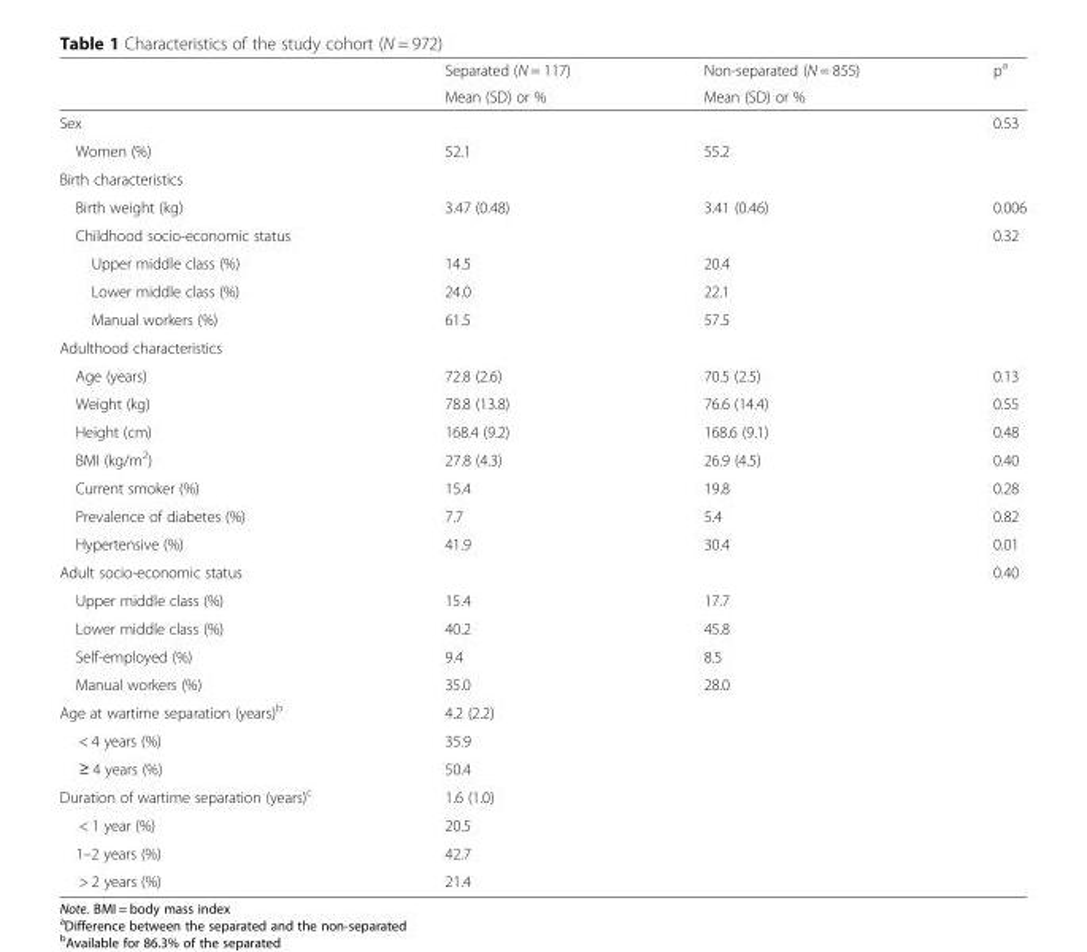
<table><thead><tr><td rowspan="2"></td><td rowspan="2">Separated (N = 117) Mean (SD) or %</td><td rowspan="2">Non-separated (N = 855) Mean (SD) or %</td><td rowspan="2">p<sup>a</sup></td></tr><tr></tr></thead><tbody><tr><td>Sex</td><td></td><td></td><td>0.53</td></tr><tr><td>Women (%)</td><td>52.1</td><td>55.2</td><td></td></tr><tr><td colspan="4">Birth characteristics</td></tr><tr><td>Birth weight (kg)</td><td>3.47 (0.48)</td><td>3.41 (0.46)</td><td>0.006</td></tr><tr><td>Childhood socio-economic status</td><td></td><td></td><td>0.32</td></tr><tr><td>Upper middle class (%)</td><td>14.5</td><td>20.4</td><td></td></tr><tr><td>Lower middle class (%)</td><td>24.0</td><td>22.1</td><td></td></tr><tr><td>Manual workers (%)</td><td>61.5</td><td>57.5</td><td></td></tr><tr><td colspan="4">Adulthood characteristics</td></tr><tr><td>Age (years)</td><td>72.8 (2.6)</td><td>70.5 (2.5)</td><td>0.13</td></tr><tr><td>Weight (kg)</td><td>78.8 (13.8)</td><td>76.6 (14.4)</td><td>0.55</td></tr><tr><td>Height (cm)</td><td>168.4 (9.2)</td><td>168.6 (9.1)</td><td>0.48</td></tr><tr><td>BMI (kg/m<sup>2</sup>)</td><td>27.8 (4.3)</td><td>26.9 (4.5)</td><td>0.40</td></tr><tr><td>Current smoker (%)</td><td>15.4</td><td>19.8</td><td>0.28</td></tr><tr><td>Prevalence of diabetes (%)</td><td>7.7</td><td>5.4</td><td>0.82</td></tr><tr><td>Hypertensive (%)</td><td>41.9</td><td>30.4</td><td>0.01</td></tr><tr><td>Adult socio-economic status</td><td></td><td></td><td>0.40</td></tr><tr><td>Upper middle class (%)</td><td>15.4</td><td>17.7</td><td></td></tr><tr><td>Lower middle class (%)</td><td>40.2</td><td>45.8</td><td></td></tr><tr><td>Self-employed (%)</td><td>9.4</td><td>8.5</td><td></td></tr><tr><td>Manual workers (%)</td><td>35.0</td><td>28.0</td><td></td></tr><tr><td>Age at wartime separation (years)<sup>b</sup></td><td>4.2 (2.2)</td><td></td><td></td></tr><tr><td>&lt; 4 years (%)</td><td>35.9</td><td></td><td></td></tr><tr><td>≥ 4 years (%)</td><td>50.4</td><td></td><td></td></tr><tr><td>Duration of wartime separation (years)<sup>c</sup></td><td>1.6 (1.0)</td><td></td><td></td></tr><tr><td>&lt; 1 year (%)</td><td>20.5</td><td></td><td></td></tr><tr><td>1–2 years (%)</td><td>42.7</td><td></td><td></td></tr><tr><td>&gt; 2 years (%)</td><td>21.4</td><td></td><td></td></tr></tbody></table>